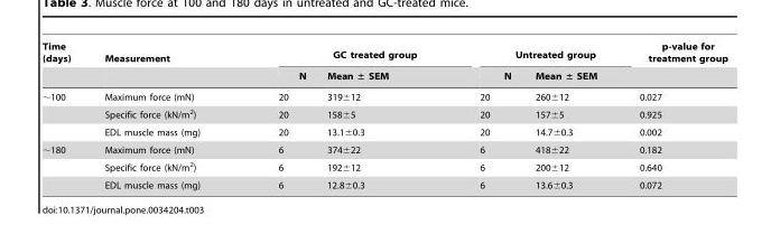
<table><thead><tr><td rowspan="2">Time (days)</td><td rowspan="2">Measurement</td><td colspan="2">GC treated group</td><td colspan="2">Untreated group</td><td rowspan="2">p-value for treatment group</td></tr><tr><td>N</td><td>Mean ± SEM</td><td>N</td><td>Mean ± SEM</td></tr></thead><tbody><tr><td rowspan="3">∼100</td><td>Maximum force (mN)</td><td>20</td><td>319±12</td><td>20</td><td>260±12</td><td>0.027</td></tr><tr><td>Specific force (kN/m<sup>2</sup>)</td><td>20</td><td>158±5</td><td>20</td><td>157±5</td><td>0.925</td></tr><tr><td>EDL muscle mass (mg)</td><td>20</td><td>13.1±0.3</td><td>20</td><td>14.7±0.3</td><td>0.002</td></tr><tr><td rowspan="3">∼180</td><td>Maximum force (mN)</td><td>6</td><td>374±22</td><td>6</td><td>418±22</td><td>0.182</td></tr><tr><td>Specific force (kN/m<sup>2</sup>)</td><td>6</td><td>192±12</td><td>6</td><td>200±12</td><td>0.640</td></tr><tr><td>EDL muscle mass (mg)</td><td>6</td><td>12.8±0.3</td><td>6</td><td>13.6±0.3</td><td>0.072</td></tr></tbody></table>